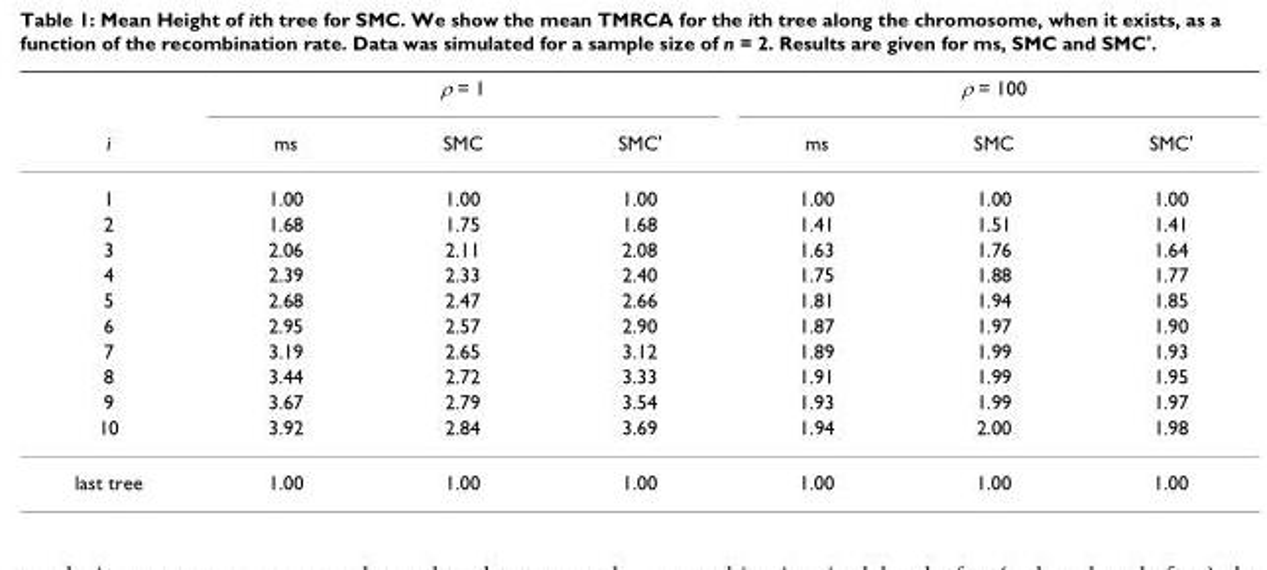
<table><thead><tr><td rowspan="2">i</td><td colspan="3">ρ = 1</td><td colspan="3">ρ = 100</td></tr><tr><td>ms</td><td>SMC</td><td>SMC&#x27;</td><td>ms</td><td>SMC</td><td>SMC&#x27;</td></tr></thead><tbody><tr><td>1</td><td>1.00</td><td>1.00</td><td>1.00</td><td>1.00</td><td>1.00</td><td>1.00</td></tr><tr><td>2</td><td>1.68</td><td>1.75</td><td>1.68</td><td>1.41</td><td>1.51</td><td>1.41</td></tr><tr><td>3</td><td>2.06</td><td>2.11</td><td>2.08</td><td>1.63</td><td>1.76</td><td>1.64</td></tr><tr><td>4</td><td>2.39</td><td>2.33</td><td>2.40</td><td>1.75</td><td>1.88</td><td>1.77</td></tr><tr><td>5</td><td>2.68</td><td>2.47</td><td>2.66</td><td>1.81</td><td>1.94</td><td>1.85</td></tr><tr><td>6</td><td>2.95</td><td>2.57</td><td>2.90</td><td>1.87</td><td>1.97</td><td>1.90</td></tr><tr><td>7</td><td>3.19</td><td>2.65</td><td>3.12</td><td>1.89</td><td>1.99</td><td>1.93</td></tr><tr><td>8</td><td>3.44</td><td>2.72</td><td>3.33</td><td>1.91</td><td>1.99</td><td>1.95</td></tr><tr><td>9</td><td>3.67</td><td>2.79</td><td>3.54</td><td>1.93</td><td>1.99</td><td>1.97</td></tr><tr><td>10</td><td>3.92</td><td>2.84</td><td>3.69</td><td>1.94</td><td>2.00</td><td>1.98</td></tr><tr><td>last tree</td><td>1.00</td><td>1.00</td><td>1.00</td><td>1.00</td><td>1.00</td><td>1.00</td></tr></tbody></table>